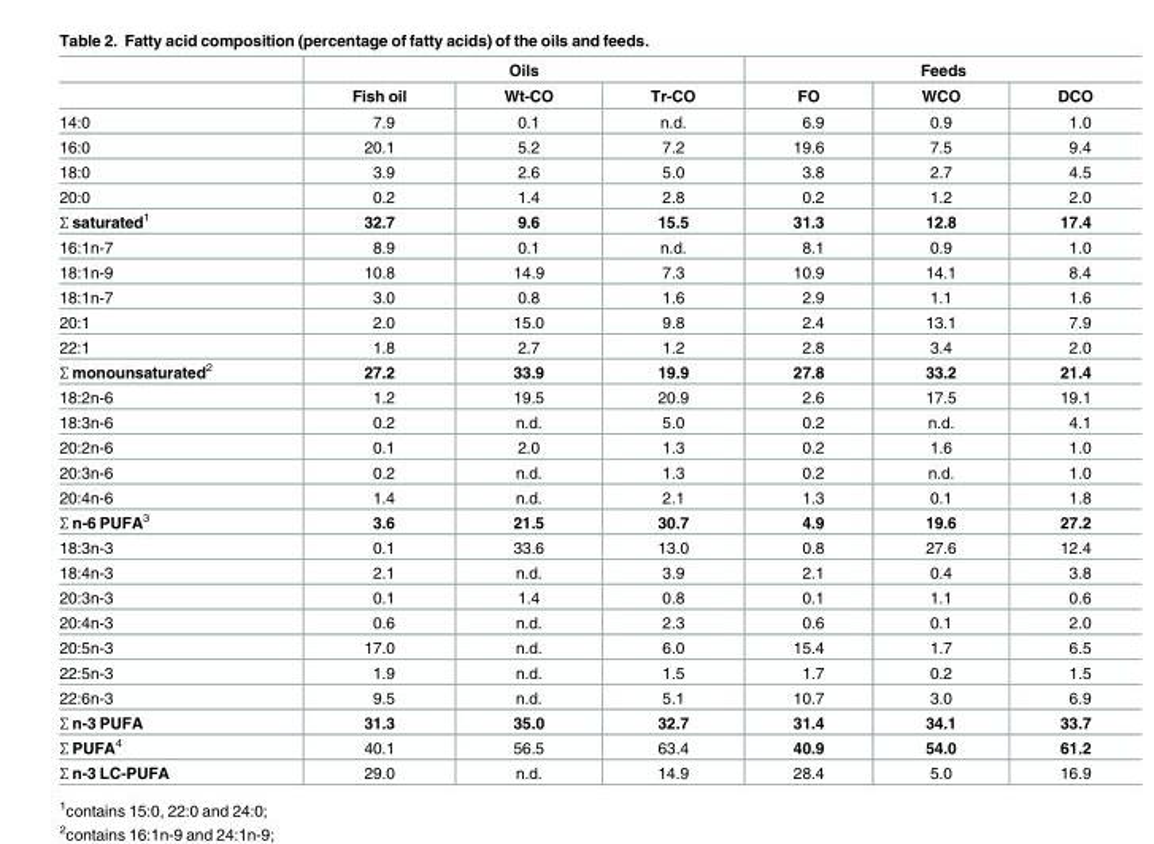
<table><thead><tr><td rowspan="2"></td><td colspan="3">Oils</td><td colspan="3">Feeds</td></tr><tr><td>Fish oil</td><td>Wt-CO</td><td>Tr-CO</td><td>FO</td><td>WCO</td><td>DCO</td></tr></thead><tbody><tr><td>14:0</td><td>7.9</td><td>0.1</td><td>n.d.</td><td>6.9</td><td>0.9</td><td>1.0</td></tr><tr><td>16:0</td><td>20.1</td><td>5.2</td><td>7.2</td><td>19.6</td><td>7.5</td><td>9.4</td></tr><tr><td>18:0</td><td>3.9</td><td>2.6</td><td>5.0</td><td>3.8</td><td>2.7</td><td>4.5</td></tr><tr><td>20:0</td><td>0.2</td><td>1.4</td><td>2.8</td><td>0.2</td><td>1.2</td><td>2.0</td></tr><tr><td>Ʃ saturated<sup>1</sup></td><td>32.7</td><td>9.6</td><td>15.5</td><td>31.3</td><td>12.8</td><td>17.4</td></tr><tr><td>16:1n-7</td><td>8.9</td><td>0.1</td><td>n.d.</td><td>8.1</td><td>0.9</td><td>1.0</td></tr><tr><td>18:1n-9</td><td>10.8</td><td>14.9</td><td>7.3</td><td>10.9</td><td>14.1</td><td>8.4</td></tr><tr><td>18:1n-7</td><td>3.0</td><td>0.8</td><td>1.6</td><td>2.9</td><td>1.1</td><td>1.6</td></tr><tr><td>20:1</td><td>2.0</td><td>15.0</td><td>9.8</td><td>2.4</td><td>13.1</td><td>7.9</td></tr><tr><td>22:1</td><td>1.8</td><td>2.7</td><td>1.2</td><td>2.8</td><td>3.4</td><td>2.0</td></tr><tr><td>Ʃ monounsaturated<sup>2</sup></td><td>27.2</td><td>33.9</td><td>19.9</td><td>27.8</td><td>33.2</td><td>21.4</td></tr><tr><td>18:2n-6</td><td>1.2</td><td>19.5</td><td>20.9</td><td>2.6</td><td>17.5</td><td>19.1</td></tr><tr><td>18:3n-6</td><td>0.2</td><td>n.d.</td><td>5.0</td><td>0.2</td><td>n.d.</td><td>4.1</td></tr><tr><td>20:2n-6</td><td>0.1</td><td>2.0</td><td>1.3</td><td>0.2</td><td>1.6</td><td>1.0</td></tr><tr><td>20:3n-6</td><td>0.2</td><td>n.d.</td><td>1.3</td><td>0.2</td><td>n.d.</td><td>1.0</td></tr><tr><td>20:4n-6</td><td>1.4</td><td>n.d.</td><td>2.1</td><td>1.3</td><td>0.1</td><td>1.8</td></tr><tr><td>Ʃ n-6 PUFA<sup>3</sup></td><td>3.6</td><td>21.5</td><td>30.7</td><td>4.9</td><td>19.6</td><td>27.2</td></tr><tr><td>18:3n-3</td><td>0.1</td><td>33.6</td><td>13.0</td><td>0.8</td><td>27.6</td><td>12.4</td></tr><tr><td>18:4n-3</td><td>2.1</td><td>n.d.</td><td>3.9</td><td>2.1</td><td>0.4</td><td>3.8</td></tr><tr><td>20:3n-3</td><td>0.1</td><td>1.4</td><td>0.8</td><td>0.1</td><td>1.1</td><td>0.6</td></tr><tr><td>20:4n-3</td><td>0.6</td><td>n.d.</td><td>2.3</td><td>0.6</td><td>0.1</td><td>2.0</td></tr><tr><td>20:5n-3</td><td>17.0</td><td>n.d.</td><td>6.0</td><td>15.4</td><td>1.7</td><td>6.5</td></tr><tr><td>22:5n-3</td><td>1.9</td><td>n.d.</td><td>1.5</td><td>1.7</td><td>0.2</td><td>1.5</td></tr><tr><td>22:6n-3</td><td>9.5</td><td>n.d.</td><td>5.1</td><td>10.7</td><td>3.0</td><td>6.9</td></tr><tr><td>Ʃ n-3 PUFA</td><td>31.3</td><td>35.0</td><td>32.7</td><td>31.4</td><td>34.1</td><td>33.7</td></tr><tr><td>Ʃ PUFA<sup>4</sup></td><td>40.1</td><td>56.5</td><td>63.4</td><td>40.9</td><td>54.0</td><td>61.2</td></tr><tr><td>Ʃ n-3 LC-PUFA</td><td>29.0</td><td>n.d.</td><td>14.9</td><td>28.4</td><td>5.0</td><td>16.9</td></tr></tbody></table>